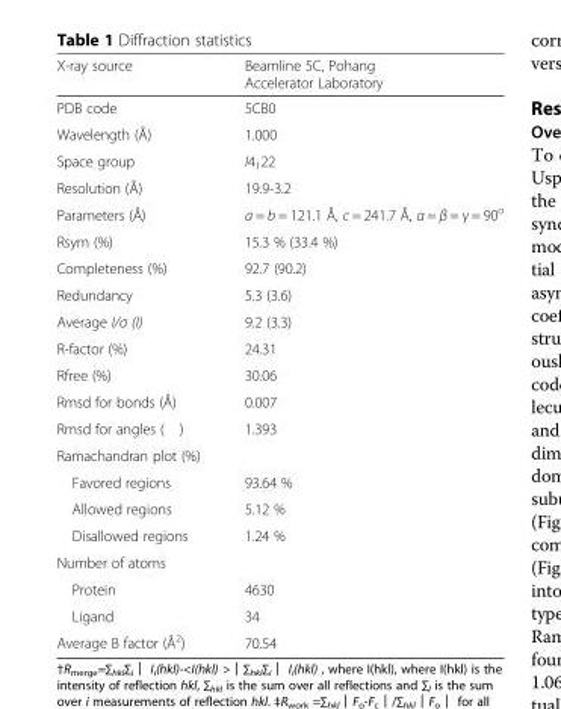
<table><thead><tr><td>X-ray source</td><td>Beamline 5C, Pohang Accelerator Laboratory</td></tr></thead><tbody><tr><td>PDB code</td><td>5CB0</td></tr><tr><td>Wavelength (Å)</td><td>1.000</td></tr><tr><td>Space group</td><td>I4<sub>1</sub>22</td></tr><tr><td>Resolution (Å)</td><td>19.9-3.2</td></tr><tr><td>Parameters (Å)</td><td>a = b = 121.1 Å, c = 241.7 Å, α = β = γ = 90<sup>o</sup></td></tr><tr><td>Rsym (%)</td><td>15.3 % (33.4 %)</td></tr><tr><td>Completeness (%)</td><td>92.7 (90.2)</td></tr><tr><td>Redundancy</td><td>5.3 (3.6)</td></tr><tr><td>Average I/σ (I)</td><td>9.2 (3.3)</td></tr><tr><td>R-factor (%)</td><td>24.31</td></tr><tr><td>Rfree (%)</td><td>30.06</td></tr><tr><td>Rmsd for bonds (Å)</td><td>0.007</td></tr><tr><td>Rmsd for angles ( )</td><td>1.393</td></tr><tr><td colspan="2">Ramachandran plot (%)</td></tr><tr><td>Favored regions</td><td>93.64 %</td></tr><tr><td>Allowed regions</td><td>5.12 %</td></tr><tr><td>Disallowed regions</td><td>1.24 %</td></tr><tr><td colspan="2">Number of atoms</td></tr><tr><td>Protein</td><td>4630</td></tr><tr><td>Ligand</td><td>34</td></tr><tr><td>Average B factor (Å<sup>2</sup>)</td><td>70.54</td></tr></tbody></table>